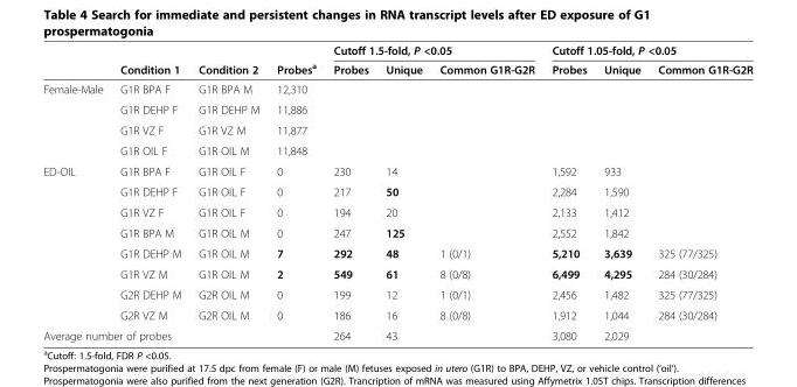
<table><thead><tr><td rowspan="2"></td><td rowspan="2">Condition 1</td><td rowspan="2">Condition 2</td><td rowspan="2">Probes<sup>a</sup></td><td colspan="3">Cutoff 1.5-fold, P &lt;0.05</td><td colspan="3">Cutoff 1.05-fold, P &lt;0.05</td></tr><tr><td>Probes</td><td>Unique</td><td>Common G1R-G2R</td><td>Probes</td><td>Unique</td><td>Common G1R-G2R</td></tr></thead><tbody><tr><td rowspan="4">Female-Male</td><td>G1R BPA F</td><td>G1R BPA M</td><td>12,310</td><td></td><td></td><td></td><td></td><td></td><td></td></tr><tr><td>G1R DEHP F</td><td>G1R DEHP M</td><td>11,886</td><td></td><td></td><td></td><td></td><td></td><td></td></tr><tr><td>G1R VZ F</td><td>G1R VZ M</td><td>11,877</td><td></td><td></td><td></td><td></td><td></td><td></td></tr><tr><td>G1R OIL F</td><td>G1R OIL M</td><td>11,848</td><td></td><td></td><td></td><td></td><td></td><td></td></tr><tr><td rowspan="8">ED-OIL</td><td>G1R BPA F</td><td>G1R OIL F</td><td>0</td><td>230</td><td>14</td><td></td><td>1,592</td><td>933</td><td></td></tr><tr><td>G1R DEHP F</td><td>G1R OIL F</td><td>0</td><td>217</td><td>50</td><td></td><td>2,284</td><td>1,590</td><td></td></tr><tr><td>G1R VZ F</td><td>G1R OIL F</td><td>0</td><td>194</td><td>20</td><td></td><td>2,133</td><td>1,412</td><td></td></tr><tr><td>G1R BPA M</td><td>G1R OIL M</td><td>0</td><td>247</td><td>125</td><td></td><td>2,552</td><td>1,842</td><td></td></tr><tr><td>G1R DEHP M</td><td>G1R OIL M</td><td>7</td><td>292</td><td>48</td><td>1 (0/1)</td><td>5,210</td><td>3,639</td><td>325 (77/325)</td></tr><tr><td>G1R VZ M</td><td>G1R OIL M</td><td>2</td><td>549</td><td>61</td><td>8 (0/8)</td><td>6,499</td><td>4,295</td><td>284 (30/284)</td></tr><tr><td>G2R DEHP M</td><td>G2R OIL M</td><td>0</td><td>199</td><td>12</td><td>1 (0/1)</td><td>2,456</td><td>1,482</td><td>325 (77/325)</td></tr><tr><td>G2R VZ M</td><td>G2R OIL M</td><td>0</td><td>186</td><td>16</td><td>8 (0/8)</td><td>1,912</td><td>1,044</td><td>284 (30/284)</td></tr><tr><td colspan="2">Average number of probes</td><td></td><td></td><td>264</td><td>43</td><td></td><td>3,080</td><td>2,029</td><td></td></tr></tbody></table>